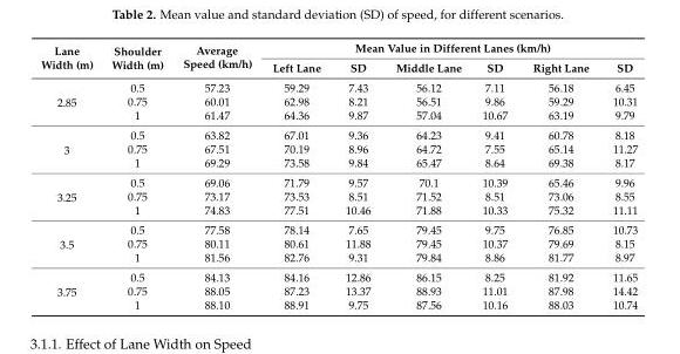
<table><thead><tr><td rowspan="2">Lane Width (m)</td><td rowspan="2">Shoulder Width (m)</td><td rowspan="2">Average Speed (km/h)</td><td colspan="6">Mean Value in Different Lanes (km/h)</td></tr><tr><td>Left Lane</td><td>SD</td><td>Middle Lane</td><td>SD</td><td>Right Lane</td><td>SD</td></tr></thead><tbody><tr><td rowspan="3">2.85</td><td>0.5</td><td>57.23</td><td>59.29</td><td>7.43</td><td>56.12</td><td>7.11</td><td>56.18</td><td>6.45</td></tr><tr><td>0.75</td><td>60.01</td><td>62.98</td><td>8.21</td><td>56.51</td><td>9.86</td><td>59.29</td><td>10.31</td></tr><tr><td>1</td><td>61.47</td><td>64.36</td><td>9.87</td><td>57.04</td><td>10.67</td><td>63.19</td><td>9.79</td></tr><tr><td rowspan="3">3</td><td>0.5</td><td>63.82</td><td>67.01</td><td>9.36</td><td>64.23</td><td>9.41</td><td>60.78</td><td>8.18</td></tr><tr><td>0.75</td><td>67.51</td><td>70.19</td><td>8.96</td><td>64.72</td><td>7.55</td><td>65.14</td><td>11.27</td></tr><tr><td>1</td><td>69.29</td><td>73.58</td><td>9.84</td><td>65.47</td><td>8.64</td><td>69.38</td><td>8.17</td></tr><tr><td rowspan="3">3.25</td><td>0.5</td><td>69.06</td><td>71.79</td><td>9.57</td><td>70.1</td><td>10.39</td><td>65.46</td><td>9.96</td></tr><tr><td>0.75</td><td>73.17</td><td>73.53</td><td>8.51</td><td>71.52</td><td>8.51</td><td>73.06</td><td>8.55</td></tr><tr><td>1</td><td>74.83</td><td>77.51</td><td>10.46</td><td>71.88</td><td>10.33</td><td>75.32</td><td>11.11</td></tr><tr><td rowspan="3">3.5</td><td>0.5</td><td>77.58</td><td>78.14</td><td>7.65</td><td>79.45</td><td>9.75</td><td>76.85</td><td>10.73</td></tr><tr><td>0.75</td><td>80.11</td><td>80.61</td><td>11.88</td><td>79.45</td><td>10.37</td><td>79.69</td><td>8.15</td></tr><tr><td>1</td><td>81.56</td><td>82.76</td><td>9.31</td><td>79.84</td><td>8.86</td><td>81.77</td><td>8.97</td></tr><tr><td rowspan="3">3.75</td><td>0.5</td><td>84.13</td><td>84.16</td><td>12.86</td><td>86.15</td><td>8.25</td><td>81.92</td><td>11.65</td></tr><tr><td>0.75</td><td>88.05</td><td>87.23</td><td>13.37</td><td>88.93</td><td>11.01</td><td>87.98</td><td>14.42</td></tr><tr><td>1</td><td>88.10</td><td>88.91</td><td>9.75</td><td>87.56</td><td>10.16</td><td>88.03</td><td>10.74</td></tr></tbody></table>